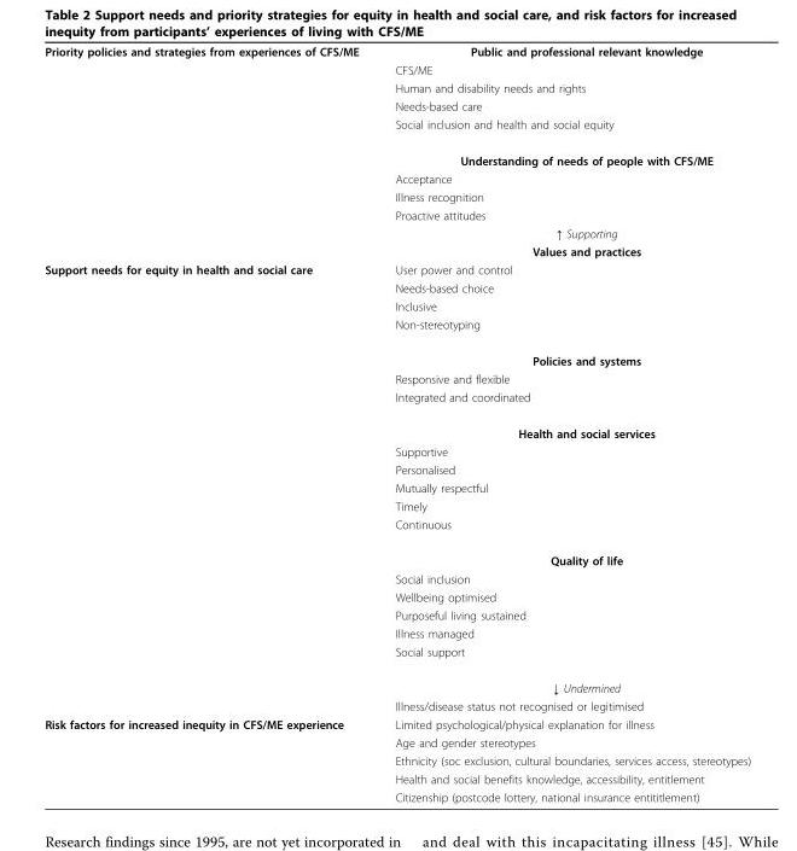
<table><tbody><tr><td rowspan="11">Priority policies and strategies from experiences of CFS/ME</td><td>Public and professional relevant knowledge</td></tr><tr><td>CFS/ME</td></tr><tr><td>Human and disability needs and rights</td></tr><tr><td>Needs-based care</td></tr><tr><td>Social inclusion and health and social equity</td></tr><tr><td>Understanding of needs of people with CFS/ME</td></tr><tr><td>Acceptance</td></tr><tr><td>Illness recognition</td></tr><tr><td>Proactive attitudes</td></tr><tr><td>↑ Supporting</td></tr><tr><td>Values and practices</td></tr><tr><td rowspan="21">Support needs for equity in health and social care</td><td>User power and control</td></tr><tr><td>Needs-based choice</td></tr><tr><td>Inclusive</td></tr><tr><td>Non-stereotyping</td></tr><tr><td>Policies and systems</td></tr><tr><td>Responsive and flexible</td></tr><tr><td>Integrated and coordinated</td></tr><tr><td>Health and social services</td></tr><tr><td>Supportive</td></tr><tr><td>Personalised</td></tr><tr><td>Mutually respectful</td></tr><tr><td>Timely</td></tr><tr><td>Continuous</td></tr><tr><td>Quality of life</td></tr><tr><td>Social inclusion</td></tr><tr><td>Wellbeing optimised</td></tr><tr><td>Purposeful living sustained</td></tr><tr><td>Illness managed</td></tr><tr><td>Social support</td></tr><tr><td>↓ Undermined</td></tr><tr><td>Illness/disease status not recognised or legitimised</td></tr><tr><td rowspan="5">Risk factors for increased inequity in CFS/ME experience</td><td>Limited psychological/physical explanation for illness</td></tr><tr><td>Age and gender stereotypes</td></tr><tr><td>Ethnicity (soc exclusion, cultural boundaries, services access, stereotypes)</td></tr><tr><td>Health and social benefits knowledge, accessibility, entitlement</td></tr><tr><td>Citizenship (postcode lottery, national insurance entititlement)</td></tr></tbody></table>